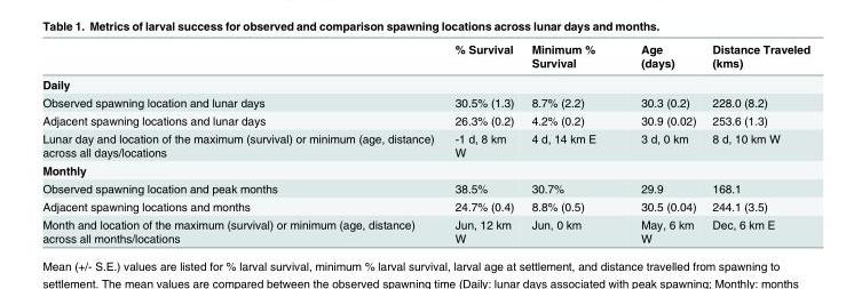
<table><thead><tr><td></td><td>% Survival</td><td>Minimum % Survival</td><td>Age (days)</td><td>Distance Traveled (kms)</td></tr></thead><tbody><tr><td colspan="5">Daily</td></tr><tr><td>Observed spawning location and lunar days</td><td>30.5% (1.3)</td><td>8.7% (2.2)</td><td>30.3 (0.2)</td><td>228.0 (8.2)</td></tr><tr><td>Adjacent spawning locations and lunar days</td><td>26.3% (0.2)</td><td>4.2% (0.2)</td><td>30.9 (0.02)</td><td>253.6 (1.3)</td></tr><tr><td>Lunar day and location of the maximum (survival) or minimum (age, distance) across all days/locations</td><td>-1 d, 8 km W</td><td>4 d, 14 km E</td><td>3 d, 0 km</td><td>8 d, 10 km W</td></tr><tr><td colspan="5">Monthly</td></tr><tr><td>Observed spawning location and peak months</td><td>38.5%</td><td>30.7%</td><td>29.9</td><td>168.1</td></tr><tr><td>Adjacent spawning locations and months</td><td>24.7% (0.4)</td><td>8.8% (0.5)</td><td>30.5 (0.04)</td><td>244.1 (3.5)</td></tr><tr><td>Month and location of the maximum (survival) or minimum (age, distance) across all months/locations</td><td>Jun, 12 km W</td><td>Jun, 0 km</td><td>May, 6 km W</td><td>Dec, 6 km E</td></tr></tbody></table>